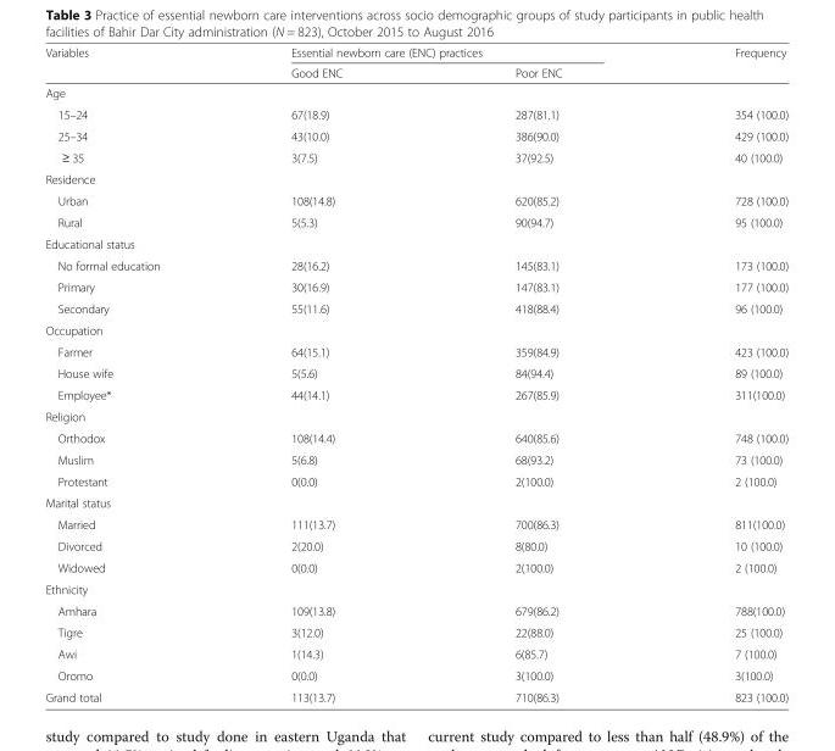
<table><thead><tr><td rowspan="2">Variables</td><td colspan="2">Essential newborn care (ENC) practices</td><td rowspan="2">Frequency</td></tr><tr><td>Good ENC</td><td>Poor ENC</td></tr></thead><tbody><tr><td colspan="4">Age</td></tr><tr><td>15–24</td><td>67(18.9)</td><td>287(81.1)</td><td>354 (100.0)</td></tr><tr><td>25–34</td><td>43(10.0)</td><td>386(90.0)</td><td>429 (100.0)</td></tr><tr><td>≥ 35</td><td>3(7.5)</td><td>37(92.5)</td><td>40 (100.0)</td></tr><tr><td colspan="4">Residence</td></tr><tr><td>Urban</td><td>108(14.8)</td><td>620(85.2)</td><td>728 (100.0)</td></tr><tr><td>Rural</td><td>5(5.3)</td><td>90(94.7)</td><td>95 (100.0)</td></tr><tr><td colspan="4">Educational status</td></tr><tr><td>No formal education</td><td>28(16.2)</td><td>145(83.1)</td><td>173 (100.0)</td></tr><tr><td>Primary</td><td>30(16.9)</td><td>147(83.1)</td><td>177 (100.0)</td></tr><tr><td>Secondary</td><td>55(11.6)</td><td>418(88.4)</td><td>96 (100.0)</td></tr><tr><td colspan="4">Occupation</td></tr><tr><td>Farmer</td><td>64(15.1)</td><td>359(84.9)</td><td>423 (100.0)</td></tr><tr><td>House wife</td><td>5(5.6)</td><td>84(94.4)</td><td>89 (100.0)</td></tr><tr><td>Employee*</td><td>44(14.1)</td><td>267(85.9)</td><td>311(100.0)</td></tr><tr><td colspan="4">Religion</td></tr><tr><td>Orthodox</td><td>108(14.4)</td><td>640(85.6)</td><td>748 (100.0)</td></tr><tr><td>Muslim</td><td>5(6.8)</td><td>68(93.2)</td><td>73 (100.0)</td></tr><tr><td>Protestant</td><td>0(0.0)</td><td>2(100.0)</td><td>2 (100.0)</td></tr><tr><td colspan="4">Marital status</td></tr><tr><td>Married</td><td>111(13.7)</td><td>700(86.3)</td><td>811(100.0)</td></tr><tr><td>Divorced</td><td>2(20.0)</td><td>8(80.0)</td><td>10 (100.0)</td></tr><tr><td>Widowed</td><td>0(0.0)</td><td>2(100.0)</td><td>2 (100.0)</td></tr><tr><td colspan="4">Ethnicity</td></tr><tr><td>Amhara</td><td>109(13.8)</td><td>679(86.2)</td><td>788(100.0)</td></tr><tr><td>Tigre</td><td>3(12.0)</td><td>22(88.0)</td><td>25 (100.0)</td></tr><tr><td>Awi</td><td>1(14.3)</td><td>6(85.7)</td><td>7 (100.0)</td></tr><tr><td>Oromo</td><td>0(0.0)</td><td>3(100.0)</td><td>3(100.0)</td></tr><tr><td>Grand total</td><td>113(13.7)</td><td>710(86.3)</td><td>823 (100.0)</td></tr></tbody></table>